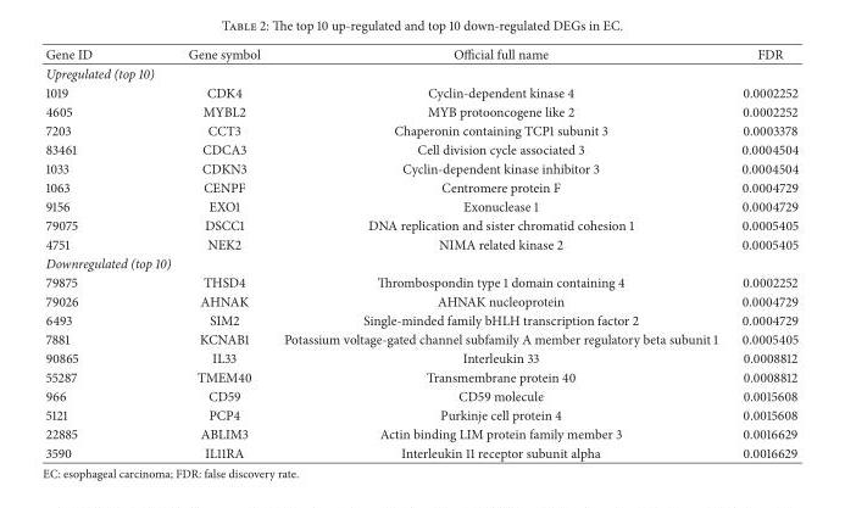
<table><thead><tr><td>Gene ID</td><td>Gene symbol</td><td>Official full name</td><td>FDR</td></tr></thead><tbody><tr><td colspan="4">Upregulated (top 10)</td></tr><tr><td>1019</td><td>CDK4</td><td>Cyclin-dependent kinase 4</td><td>0.0002252</td></tr><tr><td>4605</td><td>MYBL2</td><td>MYB protooncogene like 2</td><td>0.0002252</td></tr><tr><td>7203</td><td>CCT3</td><td>Chaperonin containing TCP1 subunit 3</td><td>0.0003378</td></tr><tr><td>83461</td><td>CDCA3</td><td>Cell division cycle associated 3</td><td>0.0004504</td></tr><tr><td>1033</td><td>CDKN3</td><td>Cyclin-dependent kinase inhibitor 3</td><td>0.0004504</td></tr><tr><td>1063</td><td>CENPF</td><td>Centromere protein F</td><td>0.0004729</td></tr><tr><td>9156</td><td>EXO1</td><td>Exonuclease 1</td><td>0.0004729</td></tr><tr><td>79075</td><td>DSCC1</td><td>DNA replication and sister chromatid cohesion 1</td><td>0.0005405</td></tr><tr><td>4751</td><td>NEK2</td><td>NIMA related kinase 2</td><td>0.0005405</td></tr><tr><td colspan="4">Downregulated (top 10)</td></tr><tr><td>79875</td><td>THSD4</td><td>Thrombospondin type 1 domain containing 4</td><td>0.0002252</td></tr><tr><td>79026</td><td>AHNAK</td><td>AHNAK nucleoprotein</td><td>0.0004729</td></tr><tr><td>6493</td><td>SIM2</td><td>Single-minded family bHLH transcription factor 2</td><td>0.0004729</td></tr><tr><td>7881</td><td>KCNAB1</td><td>Potassium voltage-gated channel subfamily A member regulatory beta subunit 1</td><td>0.0005405</td></tr><tr><td>90865</td><td>IL33</td><td>Interleukin 33</td><td>0.0008812</td></tr><tr><td>55287</td><td>TMEM40</td><td>Transmembrane protein 40</td><td>0.0008812</td></tr><tr><td>966</td><td>CD59</td><td>CD59 molecule</td><td>0.0015608</td></tr><tr><td>5121</td><td>PCP4</td><td>Purkinje cell protein 4</td><td>0.0015608</td></tr><tr><td>22885</td><td>ABLIM3</td><td>Actin binding LIM protein family member 3</td><td>0.0016629</td></tr><tr><td>3590</td><td>IL11RA</td><td>Interleukin 11 receptor subunit alpha</td><td>0.0016629</td></tr></tbody></table>